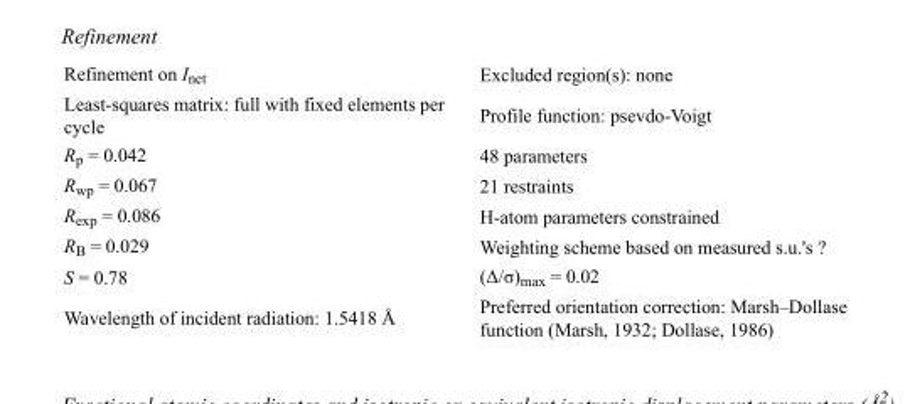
<table><tbody><tr><td>Refinement on I<sub>net</sub></td><td>Excluded region(s): none</td></tr><tr><td>Least-squares matrix: full with fixed elements per cycle</td><td>Profile function: psevdo-Voigt</td></tr><tr><td>R<sub>p</sub> = 0.042</td><td>48 parameters</td></tr><tr><td>R<sub>wp</sub> = 0.067</td><td>21 restraints</td></tr><tr><td>R<sub>exp</sub> = 0.086</td><td>H-atom parameters constrained</td></tr><tr><td>R<sub>B</sub> = 0.029</td><td>Weighting scheme based on measured s.u.&#x27;s ?</td></tr><tr><td>S = 0.78</td><td>(Δ/σ)<sub>max</sub> = 0.02</td></tr><tr><td>Wavelength of incident radiation: 1.5418 Å</td><td>Preferred orientation correction: Marsh–Dollase function (Marsh, 1932; Dollase, 1986)</td></tr></tbody></table>